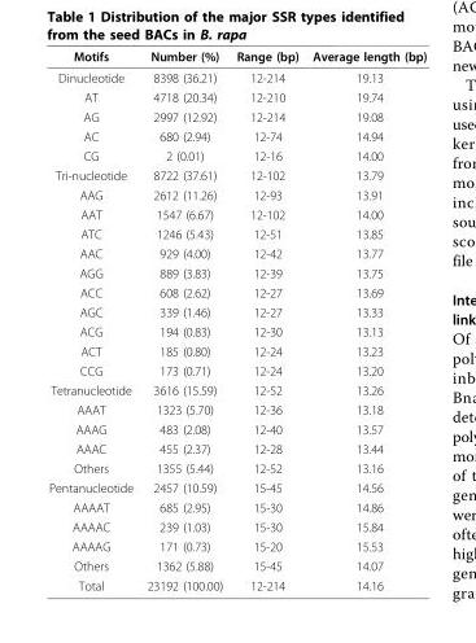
<table><thead><tr><td>Motifs</td><td>Number (%)</td><td>Range (bp)</td><td>Average length (bp)</td></tr></thead><tbody><tr><td>Dinucleotide</td><td>8398 (36.21)</td><td>12-214</td><td>19.13</td></tr><tr><td>AT</td><td>4718 (20.34)</td><td>12-210</td><td>19.74</td></tr><tr><td>AG</td><td>2997 (12.92)</td><td>12-214</td><td>19.08</td></tr><tr><td>AC</td><td>680 (2.94)</td><td>12-74</td><td>14.94</td></tr><tr><td>CG</td><td>2 (0.01)</td><td>12-16</td><td>14.00</td></tr><tr><td>Tri-nucleotide</td><td>8722 (37.61)</td><td>12-102</td><td>13.79</td></tr><tr><td>AAG</td><td>2612 (11.26)</td><td>12-93</td><td>13.91</td></tr><tr><td>AAT</td><td>1547 (6.67)</td><td>12-102</td><td>14.00</td></tr><tr><td>ATC</td><td>1246 (5.43)</td><td>12-51</td><td>13.85</td></tr><tr><td>AAC</td><td>929 (4.00)</td><td>12-42</td><td>13.77</td></tr><tr><td>AGG</td><td>889 (3.83)</td><td>12-39</td><td>13.75</td></tr><tr><td>ACC</td><td>608 (2.62)</td><td>12-27</td><td>13.69</td></tr><tr><td>AGC</td><td>339 (1.46)</td><td>12-27</td><td>13.33</td></tr><tr><td>ACG</td><td>194 (0.83)</td><td>12-30</td><td>13.13</td></tr><tr><td>ACT</td><td>185 (0.80)</td><td>12-24</td><td>13.23</td></tr><tr><td>CCG</td><td>173 (0.71)</td><td>12-24</td><td>13.20</td></tr><tr><td>Tetranucleotide</td><td>3616 (15.59)</td><td>12-52</td><td>13.26</td></tr><tr><td>AAAT</td><td>1323 (5.70)</td><td>12-36</td><td>13.18</td></tr><tr><td>AAAG</td><td>483 (2.08)</td><td>12-40</td><td>13.57</td></tr><tr><td>AAAC</td><td>455 (2.37)</td><td>12-28</td><td>13.44</td></tr><tr><td>Others</td><td>1355 (5.44)</td><td>12-52</td><td>13.16</td></tr><tr><td>Pentanucleotide</td><td>2457 (10.59)</td><td>15-45</td><td>14.56</td></tr><tr><td>AAAAT</td><td>685 (2.95)</td><td>15-30</td><td>14.86</td></tr><tr><td>AAAAC</td><td>239 (1.03)</td><td>15-30</td><td>15.84</td></tr><tr><td>AAAAG</td><td>171 (0.73)</td><td>15-20</td><td>15.53</td></tr><tr><td>Others</td><td>1362 (5.88)</td><td>15-45</td><td>14.07</td></tr><tr><td>Total</td><td>23192 (100.00)</td><td>12-214</td><td>14.16</td></tr></tbody></table>